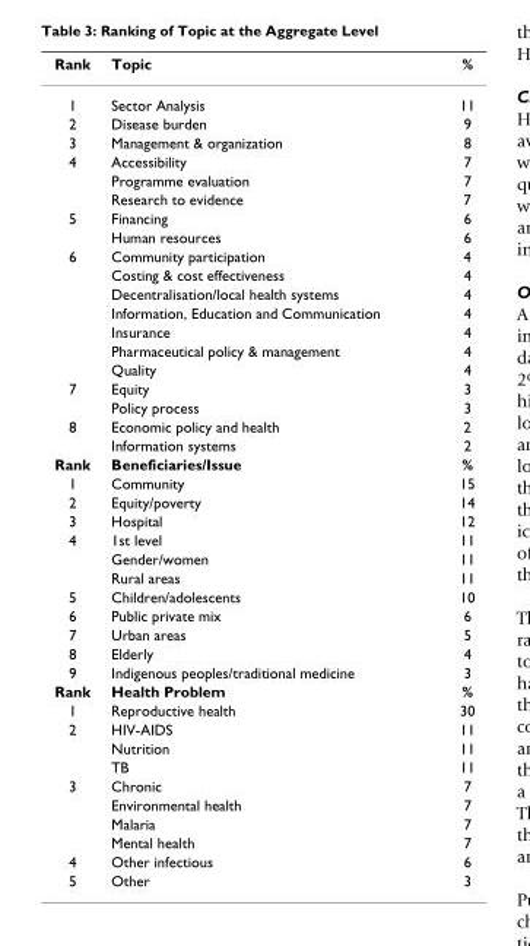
<table><thead><tr><td>Rank</td><td>Topic</td><td>%</td></tr></thead><tbody><tr><td>1</td><td>Sector Analysis</td><td>11</td></tr><tr><td>2</td><td>Disease burden</td><td>9</td></tr><tr><td>3</td><td>Management &amp; organization</td><td>8</td></tr><tr><td rowspan="3">4</td><td>Accessibility</td><td>7</td></tr><tr><td>Programme evaluation</td><td>7</td></tr><tr><td>Research to evidence</td><td>7</td></tr><tr><td rowspan="2">5</td><td>Financing</td><td>6</td></tr><tr><td>Human resources</td><td>6</td></tr><tr><td rowspan="7">6</td><td>Community participation</td><td>4</td></tr><tr><td>Costing &amp; cost effectiveness</td><td>4</td></tr><tr><td>Decentralisation/local health systems</td><td>4</td></tr><tr><td>Information, Education and Communication</td><td>4</td></tr><tr><td>Insurance</td><td>4</td></tr><tr><td>Pharmaceutical policy &amp; management</td><td>4</td></tr><tr><td>Quality</td><td>4</td></tr><tr><td rowspan="2">7</td><td>Equity</td><td>3</td></tr><tr><td>Policy process</td><td>3</td></tr><tr><td rowspan="2">8</td><td>Economic policy and health</td><td>2</td></tr><tr><td>Information systems</td><td>2</td></tr><tr><td>Rank</td><td>Beneficiaries/Issue</td><td>%</td></tr><tr><td>1</td><td>Community</td><td>15</td></tr><tr><td>2</td><td>Equity/poverty</td><td>14</td></tr><tr><td>3</td><td>Hospital</td><td>12</td></tr><tr><td rowspan="3">4</td><td>1st level</td><td>11</td></tr><tr><td>Gender/women</td><td>11</td></tr><tr><td>Rural areas</td><td>11</td></tr><tr><td>5</td><td>Children/adolescents</td><td>10</td></tr><tr><td>6</td><td>Public private mix</td><td>6</td></tr><tr><td>7</td><td>Urban areas</td><td>5</td></tr><tr><td>8</td><td>Elderly</td><td>4</td></tr><tr><td>9</td><td>Indigenous peoples/traditional medicine</td><td>3</td></tr><tr><td>Rank</td><td>Health Problem</td><td>%</td></tr><tr><td>1</td><td>Reproductive health</td><td>30</td></tr><tr><td rowspan="3">2</td><td>HIV-AIDS</td><td>11</td></tr><tr><td>Nutrition</td><td>11</td></tr><tr><td>TB</td><td>11</td></tr><tr><td rowspan="4">3</td><td>Chronic</td><td>7</td></tr><tr><td>Environmental health</td><td>7</td></tr><tr><td>Malaria</td><td>7</td></tr><tr><td>Mental health</td><td>7</td></tr><tr><td>4</td><td>Other infectious</td><td>6</td></tr><tr><td>5</td><td>Other</td><td>3</td></tr></tbody></table>